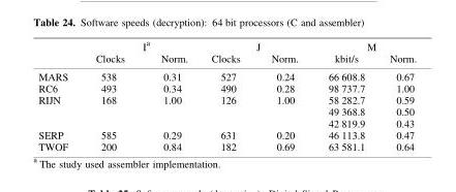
<table><thead><tr><td rowspan="2"></td><td colspan="2">I<sup>a</sup></td><td colspan="2">J</td><td colspan="2">M</td></tr><tr><td>Clocks</td><td>Norm.</td><td>Clocks</td><td>Norm.</td><td>kbit/s</td><td>Norm.</td></tr></thead><tbody><tr><td>MARS</td><td>538</td><td>0.31</td><td>527</td><td>0.24</td><td>66 608.8</td><td>0.67</td></tr><tr><td>RC6</td><td>493</td><td>0.34</td><td>490</td><td>0.28</td><td>98 737.7</td><td>1.00</td></tr><tr><td rowspan="3">RIJN</td><td>168</td><td>1.00</td><td>126</td><td>1.00</td><td>58 282.7</td><td>0.59</td></tr><tr><td></td><td></td><td></td><td></td><td>49 368.8</td><td>0.50</td></tr><tr><td></td><td></td><td></td><td></td><td>42 819.9</td><td>0.43</td></tr><tr><td>SERP</td><td>585</td><td>0.29</td><td>631</td><td>0.20</td><td>46 113.8</td><td>0.47</td></tr><tr><td>TWOF</td><td>200</td><td>0.84</td><td>182</td><td>0.69</td><td>63 581.1</td><td>0.64</td></tr></tbody></table>